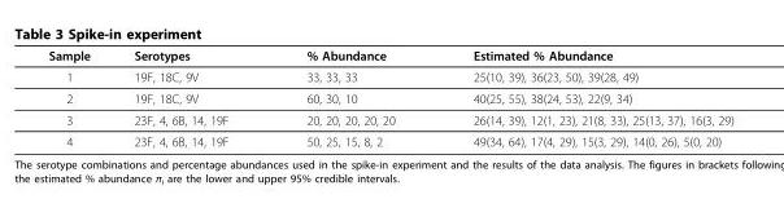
<table><thead><tr><td>Sample</td><td>Serotypes</td><td>% Abundance</td><td>Estimated % Abundance</td></tr></thead><tbody><tr><td>1</td><td>19F, 18C, 9V</td><td>33, 33, 33</td><td>25(10, 39), 36(23, 50), 39(28, 49)</td></tr><tr><td>2</td><td>19F, 18C, 9V</td><td>60, 30, 10</td><td>40(25, 55), 38(24, 53), 22(9, 34)</td></tr><tr><td>3</td><td>23F, 4, 6B, 14, 19F</td><td>20, 20, 20, 20, 20</td><td>26(14, 39), 12(1, 23), 21(8, 33), 25(13, 37), 16(3, 29)</td></tr><tr><td>4</td><td>23F, 4, 6B, 14, 19F</td><td>50, 25, 15, 8, 2</td><td>49(34, 64), 17(4, 29), 15(3, 29), 14(0, 26), 5(0, 20)</td></tr></tbody></table>